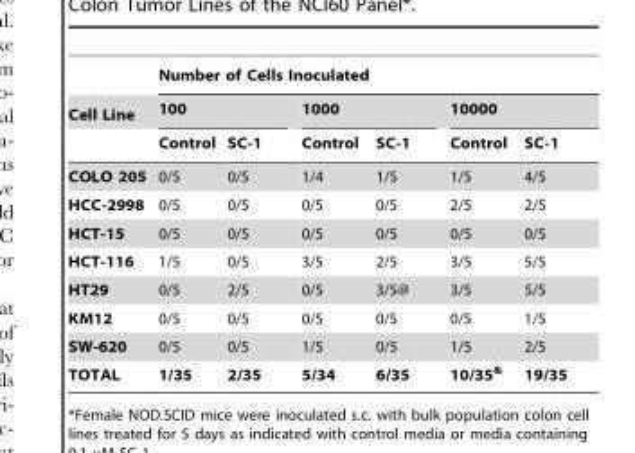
<table><thead><tr><td rowspan="3">Cell Line</td><td colspan="6">Number of Cells Inoculated</td></tr><tr><td colspan="2">100</td><td colspan="2">1000</td><td colspan="2">10000</td></tr><tr><td>Control</td><td>SC-1</td><td>Control</td><td>SC-1</td><td>Control</td><td>SC-1</td></tr></thead><tbody><tr><td>COLO 205</td><td>0/5</td><td>0/5</td><td>1/4</td><td>1/5</td><td>1/5</td><td>4/5</td></tr><tr><td>HCC-2998</td><td>0/5</td><td>0/5</td><td>0/5</td><td>0/5</td><td>2/5</td><td>2/5</td></tr><tr><td>HCT-15</td><td>0/5</td><td>0/5</td><td>0/5</td><td>0/5</td><td>0/5</td><td>0/5</td></tr><tr><td>HCT-116</td><td>1/5</td><td>0/5</td><td>3/5</td><td>2/5</td><td>3/5</td><td>5/5</td></tr><tr><td>HT29</td><td>0/5</td><td>2/5</td><td>0/5</td><td>3/5@</td><td>3/5</td><td>5/5</td></tr><tr><td>KM12</td><td>0/5</td><td>0/5</td><td>0/5</td><td>0/5</td><td>0/5</td><td>1/5</td></tr><tr><td>SW-620</td><td>0/5</td><td>0/5</td><td>1/5</td><td>0/5</td><td>1/5</td><td>2/5</td></tr><tr><td>TOTAL</td><td>1/35</td><td>2/35</td><td>5/34</td><td>6/35</td><td>10/35&amp;</td><td>19/35</td></tr></tbody></table>